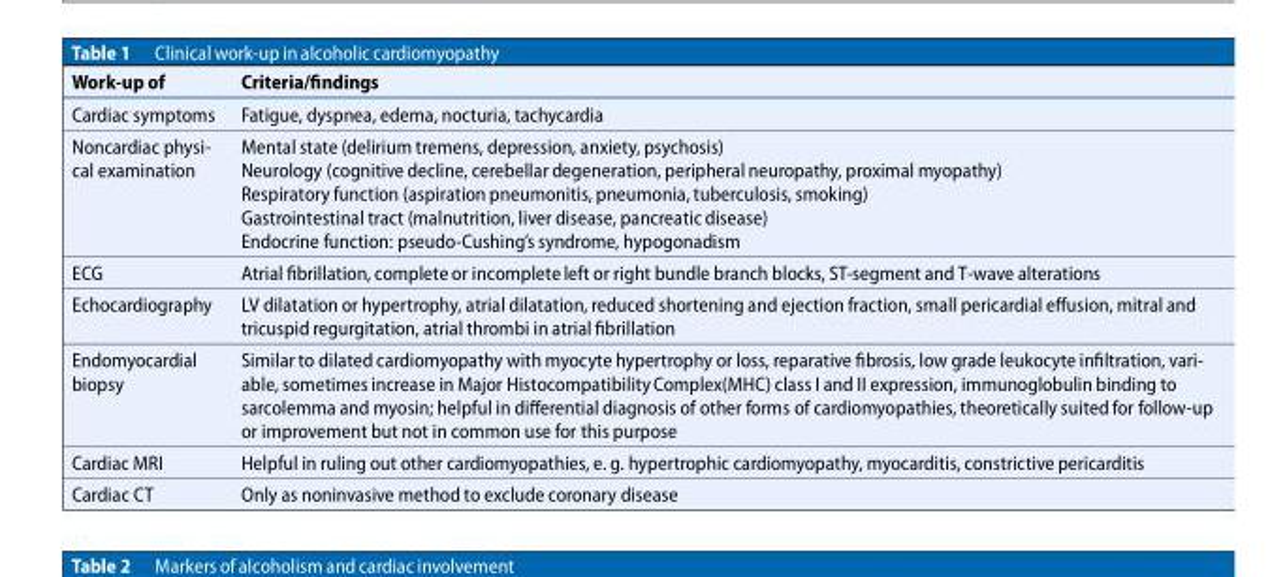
<table><thead><tr><td>Work-up of</td><td>Criteria/findings</td></tr></thead><tbody><tr><td>Cardiac symptoms</td><td>Fatigue, dyspnea, edema, nocturia, tachycardia</td></tr><tr><td>Noncardiac physi- cal examination</td><td>Mental state (delirium tremens, depression, anxiety, psychosis) Neurology (cognitive decline, cerebellar degeneration, peripheral neuropathy, proximal myopathy) Respiratory function (aspiration pneumonitis, pneumonia, tuberculosis, smoking) Gastrointestinal tract (malnutrition, liver disease, pancreatic disease) Endocrine function: pseudo-Cushing’s syndrome, hypogonadism</td></tr><tr><td>ECG</td><td>Atrial fibrillation, complete or incompleteleft or right bundle branch blocks, ST-segment and T-wave alterations</td></tr><tr><td>Echocardiography</td><td>LV dilatation or hypertrophy, atrial dilatation, reduced shortening and ejection fraction, small pericardial effusion, mitral and tricuspid regurgitation, atrial thrombi in atrial fibrillation</td></tr><tr><td>Endomyocardial biopsy</td><td>Similar to dilated cardiomyopathy with myocyte hypertrophy or loss, reparative fibrosis, low grade leukocyte infiltration, vari- able, sometimes increase in Major HistocompatibilityComplex(MHC) class I and II expression, immunoglobulin binding to sarcolemma and myosin; helpful in differential diagnosis of other forms of cardiomyopathies, theoretically suited for follow-up or improvement but not in common use for this purpose</td></tr><tr><td>Cardiac MRI</td><td>Helpful in ruling out other cardiomyopathies, e. g. hypertrophic cardiomyopathy, myocarditis, constrictive pericarditis</td></tr><tr><td>Cardiac CT</td><td>Only as noninvasive method to exclude coronary disease</td></tr></tbody></table>